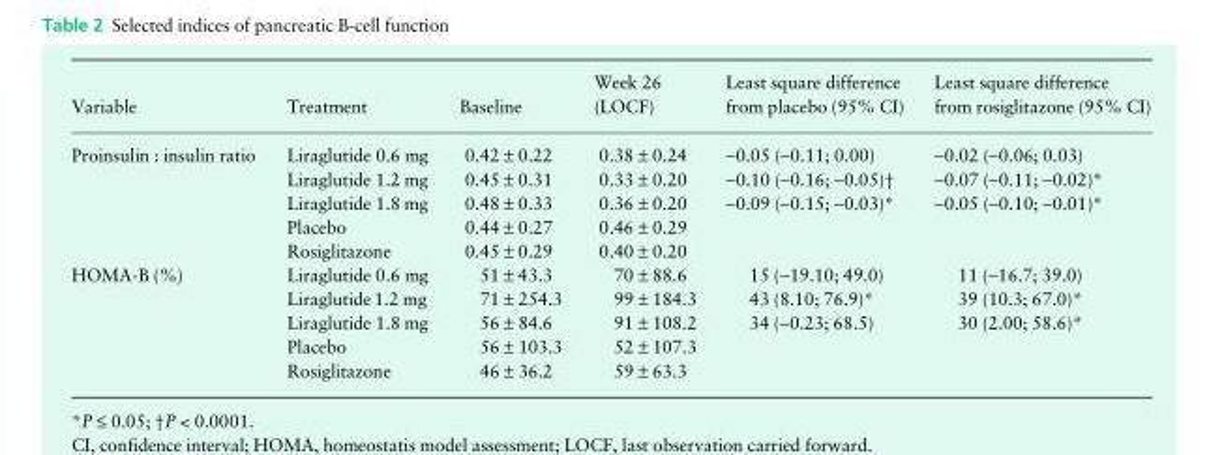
<table><thead><tr><td>Variable</td><td>Treatment</td><td>Baseline</td><td>Week 26 (LOCF)</td><td>Least square difference from placebo (95% CI)</td><td>Least square difference from rosiglitazone (95% CI)</td></tr></thead><tbody><tr><td rowspan="5">Proinsulin : insulin ratio</td><td>Liraglutide 0.6 mg</td><td>0.42 ± 0.22</td><td>0.38 ± 0.24</td><td>−0.05 (−0.11; 0.00)</td><td>−0.02 (−0.06; 0.03)</td></tr><tr><td>Liraglutide 1.2 mg</td><td>0.45 ± 0.31</td><td>0.33 ± 0.20</td><td>−0.10 (−0.16; −0.05)†</td><td>−0.07 (−0.11; −0.02)*</td></tr><tr><td>Liraglutide 1.8 mg</td><td>0.48 ± 0.33</td><td>0.36 ± 0.20</td><td>−0.09 (−0.15; −0.03)*</td><td>−0.05 (−0.10; −0.01)*</td></tr><tr><td>Placebo</td><td>0.44 ± 0.27</td><td>0.46 ± 0.29</td><td></td><td></td></tr><tr><td>Rosiglitazone</td><td>0.45 ± 0.29</td><td>0.40 ± 0.20</td><td></td><td></td></tr><tr><td rowspan="5">HOMA-B (%)</td><td>Liraglutide 0.6 mg</td><td>51 ± 43.3</td><td>70 ± 88.6</td><td>15 (−19.10; 49.0)</td><td>11 (−16.7; 39.0)</td></tr><tr><td>Liraglutide 1.2 mg</td><td>71 ± 254.3</td><td>99 ± 184.3</td><td>43 (8.10; 76.9)*</td><td>39 (10.3; 67.0)*</td></tr><tr><td>Liraglutide 1.8 mg</td><td>56 ± 84.6</td><td>91 ± 108.2</td><td>34 (−0.23; 68.5)</td><td>30 (2.00; 58.6)*</td></tr><tr><td>Placebo</td><td>56 ± 103.3</td><td>52 ± 107.3</td><td></td><td></td></tr><tr><td>Rosiglitazone</td><td>46 ± 36.2</td><td>59 ± 63.3</td><td></td><td></td></tr></tbody></table>